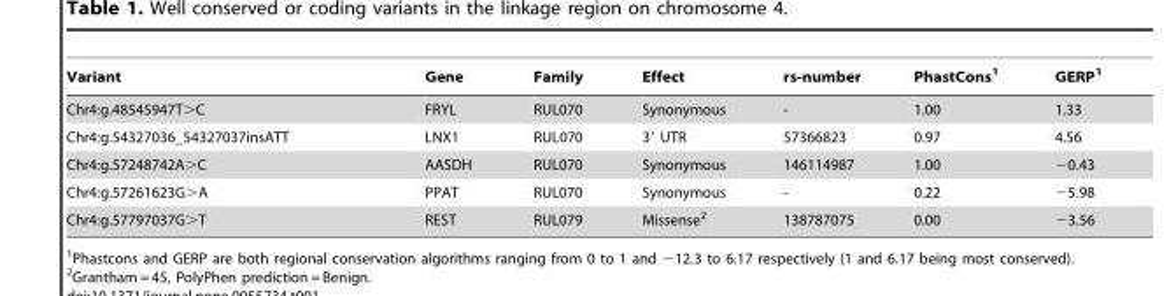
<table><thead><tr><td>Variant</td><td>Gene</td><td>Family</td><td>Effect</td><td>rs-number</td><td>PhastCons<sup>1</sup></td><td>GERP<sup>1</sup></td></tr></thead><tbody><tr><td>Chr4:g.48545947T&gt;C</td><td>FRYL</td><td>RUL070</td><td>Synonymous</td><td>-</td><td>1.00</td><td>1.33</td></tr><tr><td>Chr4:g.54327036_54327037insATT</td><td>LNX1</td><td>RUL070</td><td>3′ UTR</td><td>57366823</td><td>0.97</td><td>4.56</td></tr><tr><td>Chr4:g.57248742A&gt;C</td><td>AASDH</td><td>RUL070</td><td>Synonymous</td><td>146114987</td><td>1.00</td><td>−0.43</td></tr><tr><td>Chr4:g.57261623G&gt;A</td><td>PPAT</td><td>RUL070</td><td>Synonymous</td><td>-</td><td>0.22</td><td>−5.98</td></tr><tr><td>Chr4:g.57797037G&gt;T</td><td>REST</td><td>RUL079</td><td>Missense<sup>2</sup></td><td>138787075</td><td>0.00</td><td>−3.56</td></tr></tbody></table>